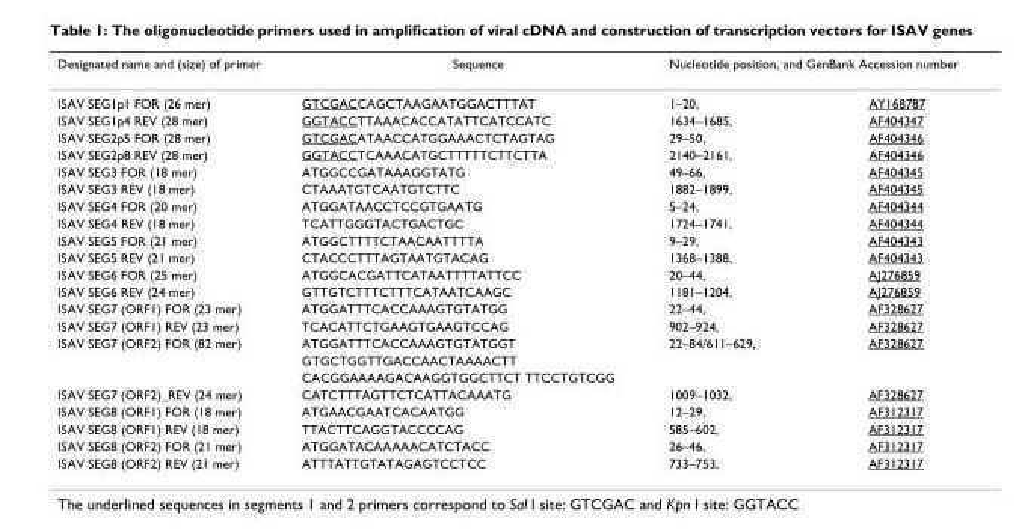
<table><thead><tr><td rowspan="2">Designated name and (size) of primer ISAV SEG1p1 FOR (26 mer)</td><td rowspan="2">Sequence GTCGACCAGCTAAGAATGGACTTTAT</td><td colspan="2">Nucleotide position, and GenBank Accession number</td></tr><tr><td>1–20,</td><td>AY168787</td></tr></thead><tbody><tr><td>ISAV SEG1p4 REV (28 mer)</td><td>GGTACCTTAAACACCATATTCATCCATC</td><td>1634–1685,</td><td>AF404347</td></tr><tr><td>ISAV SEG2p5 FOR (28 mer)</td><td>GTCGACATAACCATGGAAACTCTAGTAG</td><td>29–50,</td><td>AF404346</td></tr><tr><td>ISAV SEG2p8 REV (28 mer)</td><td>GGTACCTCAAACATGCTTTTTCTTCTTA</td><td>2140–2161,</td><td>AF404346</td></tr><tr><td>ISAV SEG3 FOR (18 mer)</td><td>ATGGCCGATAAAGGTATG</td><td>49–66,</td><td>AF404345</td></tr><tr><td>ISAV SEG3 REV (18 mer)</td><td>CTAAATGTCAATGTCTTC</td><td>1882–1899,</td><td>AF404345</td></tr><tr><td>ISAV SEG4 FOR (20 mer)</td><td>ATGGATAACCTCCGTGAATG</td><td>5–24,</td><td>AF404344</td></tr><tr><td>ISAV SEG4 REV (18 mer)</td><td>TCATTGGGTACTGACTGC</td><td>1724–1741,</td><td>AF404344</td></tr><tr><td>ISAV SEG5 FOR (21 mer)</td><td>ATGGCTTTTCTAACAATTTTA</td><td>9–29,</td><td>AF404343</td></tr><tr><td>ISAV SEG5 REV (21 mer)</td><td>CTACCCTTTAGTAATGTACAG</td><td>1368–1388,</td><td>AF404343</td></tr><tr><td>ISAV SEG6 FOR (25 mer)</td><td>ATGGCACGATTCATAATTTTATTCC</td><td>20–44,</td><td>AJ276859</td></tr><tr><td>ISAV SEG6 REV (24 mer)</td><td>GTTGTCTTTCTTTCATAATCAAGC</td><td>1181–1204,</td><td>AJ276859</td></tr><tr><td>ISAV SEG7 (ORF1) FOR (23 mer)</td><td>ATGGATTTCACCAAAGTGTATGG</td><td>22–44,</td><td>AF328627</td></tr><tr><td>ISAV SEG7 (ORF1) REV (23 mer)</td><td>TCACATTCTGAAGTGAAGTCCAG</td><td>902–924,</td><td>AF328627</td></tr><tr><td rowspan="3">ISAV SEG7 (ORF2) FOR (82 mer)</td><td>ATGGATTTCACCAAAGTGTATGGT</td><td>22–84/611–629,</td><td>AF328627</td></tr><tr><td>GTGCTGGTTGACCAACTAAAACTT</td><td></td><td></td></tr><tr><td>CACGGAAAAGACAAGGTGGCTTCT TTCCTGTCGG</td><td></td><td></td></tr><tr><td>ISAV SEG7 (ORF2)_REV (24 mer)</td><td>CATCTTTAGTTCTCATTACAAATG</td><td>1009–1032,</td><td>AF328627</td></tr><tr><td>ISAV SEG8 (ORF1) FOR (18 mer)</td><td>ATGAACGAATCACAATGG</td><td>12–29,</td><td>AF312317</td></tr><tr><td>ISAV SEG8 (ORF1) REV (18 mer)</td><td>TTACTTCAGGTACCCCAG</td><td>585–602,</td><td>AF312317</td></tr><tr><td>ISAV SEG8 (ORF2) FOR (21 mer)</td><td>ATGGATACAAAAACATCTACC</td><td>26–46,</td><td>AF312317</td></tr><tr><td>ISAV SEG8 (ORF2) REV (21 mer)</td><td>ATTTATTGTATAGAGTCCTCC</td><td>733–753,</td><td>AF312317</td></tr></tbody></table>